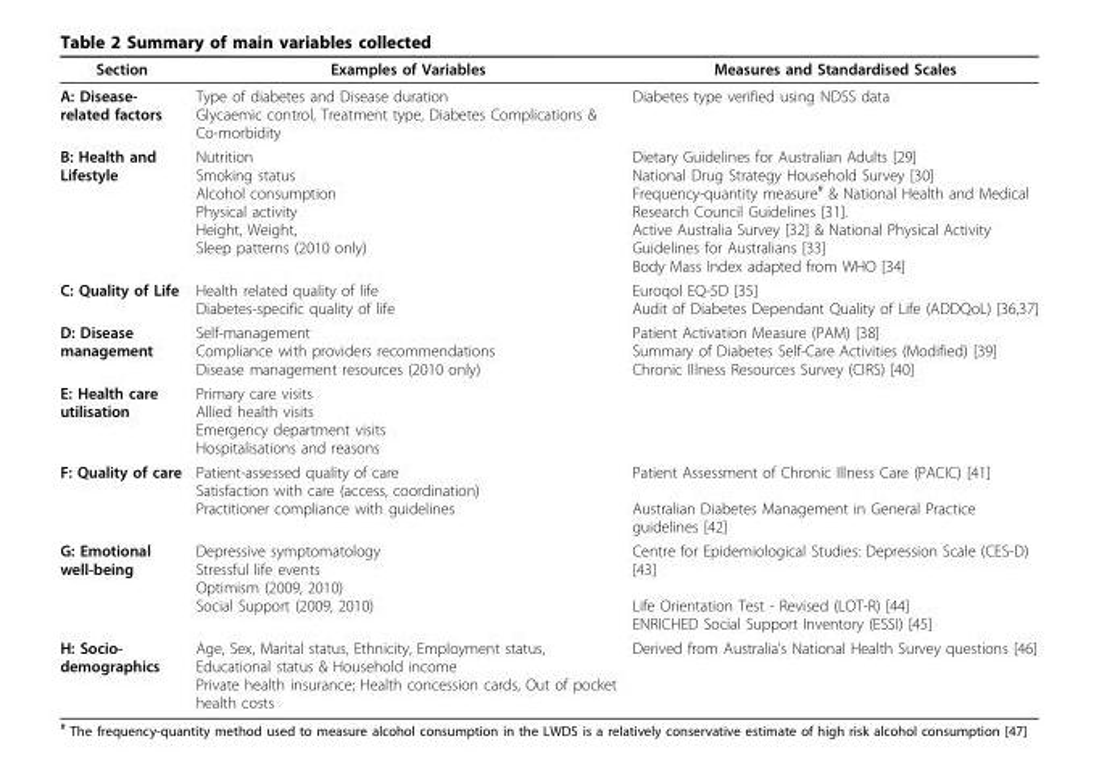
<table><thead><tr><td>Section</td><td>Examples of Variables</td><td>Measures and Standardised Scales</td></tr></thead><tbody><tr><td>A: Disease- related factors</td><td>Type of diabetes and Disease duration Glycaemic control, Treatment type, Diabetes Complications &amp; Co-morbidity</td><td>Diabetes type verified using NDSS data</td></tr><tr><td>B: Health and Lifestyle</td><td>Nutrition Smoking status Alcohol consumption Physical activity Height, Weight, Sleep patterns (2010 only)</td><td>Dietary Guidelines for Australian Adults [29] National Drug Strategy Household Survey [30] Frequency-quantity measure<sup>#</sup> &amp; National Health and Medical Research Council Guidelines [31]. Active Australia Survey [32] &amp; National Physical Activity Guidelines for Australians [33] Body Mass Index adapted from WHO [34]</td></tr><tr><td>C: Quality of Life</td><td>Health related quality of life Diabetes-specific quality of life</td><td>Euroqol EQ-5D [35] Audit of Diabetes Dependant Quality of Life (ADDQoL) [36,37]</td></tr><tr><td>D: Disease management</td><td>Self-management Compliance with providers recommendations Disease management resources (2010 only)</td><td>Patient Activation Measure (PAM) [38] Summary of Diabetes Self-Care Activities (Modified) [39] Chronic Illness Resources Survey (CIRS) [40]</td></tr><tr><td>E: Health care utilisation</td><td>Primary care visits Allied health visits Emergency department visits Hospitalisations and reasons</td><td></td></tr><tr><td>F: Quality of care</td><td>Patient-assessed quality of care Satisfaction with care (access, coordination) Practitioner compliance with guidelines</td><td>Patient Assessment of Chronic Illness Care (PACIC) [41] Australian Diabetes Management in General Practice guidelines [42]</td></tr><tr><td>G: Emotional well-being</td><td>Depressive symptomatology Stressful life events Optimism (2009, 2010) Social Support (2009, 2010)</td><td>Centre for Epidemiological Studies: Depression Scale (CES-D) [43] Life Orientation Test - Revised (LOT-R) [44] ENRICHED Social Support Inventory (ESSI) [45]</td></tr><tr><td>H: Socio- demographics</td><td>Age, Sex, Marital status, Ethnicity, Employment status, Educational status &amp; Household income Private health insurance; Health concession cards, Out of pocket health costs</td><td>Derived from Australia’s National Health Survey questions [46]</td></tr></tbody></table>